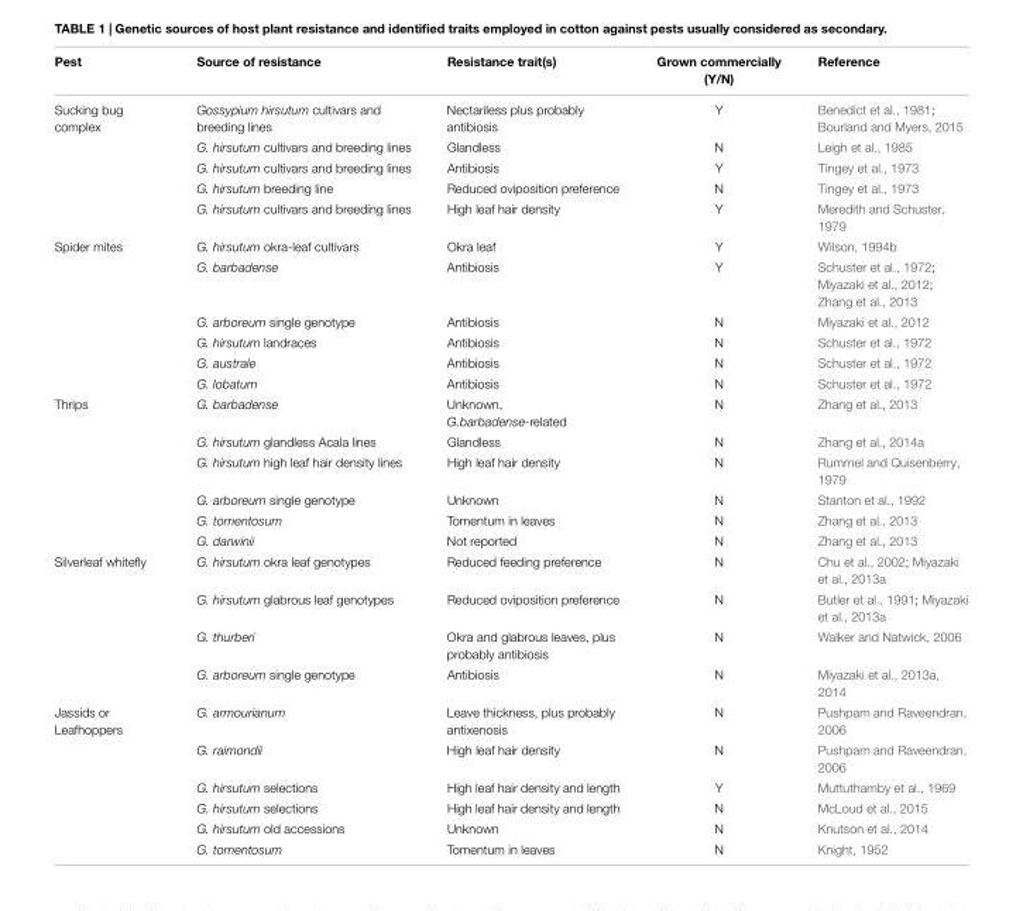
<table><thead><tr><td>Pest</td><td>Source of resistance</td><td>Resistance trait(s)</td><td>Grown commercially (Y/N)</td><td>Reference</td></tr></thead><tbody><tr><td rowspan="5">Sucking bug complex</td><td>Gossypium hirsutum cultivars and breeding lines</td><td>Nectariless plus probably antibiosis</td><td>Y</td><td>Benedict et al., 1981; Bourland and Myers, 2015</td></tr><tr><td>G. hirsutum cultivars and breeding lines</td><td>Glandless</td><td>N</td><td>Leigh et al., 1985</td></tr><tr><td>G. hirsutum cultivars and breeding lines</td><td>Antibiosis</td><td>Y</td><td>Tingey et al., 1973</td></tr><tr><td>G. hirsutum breeding line</td><td>Reduced oviposition preference</td><td>N</td><td>Tingey et al., 1973</td></tr><tr><td>G. hirsutum cultivars and breeding lines</td><td>High leaf hair density</td><td>Y</td><td>Meredith and Schuster, 1979</td></tr><tr><td rowspan="6">Spider mites</td><td>G. hirsutum okra-leaf cultivars</td><td>Okra leaf</td><td>Y</td><td>Wilson, 1994b</td></tr><tr><td>G. barbadense</td><td>Antibiosis</td><td>Y</td><td>Schuster et al., 1972; Miyazaki et al., 2012; Zhang et al., 2013</td></tr><tr><td>G. arboreum single genotype</td><td>Antibiosis</td><td>N</td><td>Miyazaki et al., 2012</td></tr><tr><td>G. hirsutum landraces</td><td>Antibiosis</td><td>N</td><td>Schuster et al., 1972</td></tr><tr><td>G. australe</td><td>Antibiosis</td><td>N</td><td>Schuster et al., 1972</td></tr><tr><td>G. lobatum</td><td>Antibiosis</td><td>N</td><td>Schuster et al., 1972</td></tr><tr><td rowspan="6">Thrips</td><td>G. barbadense</td><td>Unknown, G.barbadense-related</td><td>N</td><td>Zhang et al., 2013</td></tr><tr><td>G. hirsutum glandless Acala lines</td><td>Glandless</td><td>N</td><td>Zhang et al., 2014a</td></tr><tr><td>G. hirsutum high leaf hair density lines</td><td>High leaf hair density</td><td>N</td><td>Rummel and Quisenberry, 1979</td></tr><tr><td>G. arboreum single genotype</td><td>Unknown</td><td>N</td><td>Stanton et al., 1992</td></tr><tr><td>G. tomentosum</td><td>Tomentum in leaves</td><td>N</td><td>Zhang et al., 2013</td></tr><tr><td>G. darwinii</td><td>Not reported</td><td>N</td><td>Zhang et al., 2013</td></tr><tr><td rowspan="4">Silverleaf whitefly</td><td>G. hirsutum okra leaf genotypes</td><td>Reduced feeding preference</td><td>N</td><td>Chu et al., 2002; Miyazaki et al., 2013a</td></tr><tr><td>G. hirsutum glabrous leaf genotypes</td><td>Reduced oviposition preference</td><td>N</td><td>Butler et al., 1991; Miyazaki et al., 2013a</td></tr><tr><td>G. thurberi</td><td>Okra and glabrous leaves, plus probably antibiosis</td><td>N</td><td>Walker and Natwick, 2006</td></tr><tr><td>G. arboreum single genotype</td><td>Antibiosis</td><td>N</td><td>Miyazaki et al., 2013a, 2014</td></tr><tr><td rowspan="6">Jassids or Leafhoppers</td><td>G. armourianum</td><td>Leave thickness, plus probably antixenosis</td><td>N</td><td>Pushpam and Raveendran, 2006</td></tr><tr><td>G. raimondii</td><td>High leaf hair density</td><td>N</td><td>Pushpam and Raveendran, 2006</td></tr><tr><td>G. hirsutum selections</td><td>High leaf hair density and length</td><td>Y</td><td>Muttuthamby et al., 1969</td></tr><tr><td>G. hirsutum selections</td><td>High leaf hair density and length</td><td>N</td><td>McLoud et al., 2015</td></tr><tr><td>G. hirsutum old accessions</td><td>Unknown</td><td>N</td><td>Knutson et al., 2014</td></tr><tr><td>G. tomentosum</td><td>Tomentum in leaves</td><td>N</td><td>Knight, 1952</td></tr></tbody></table>